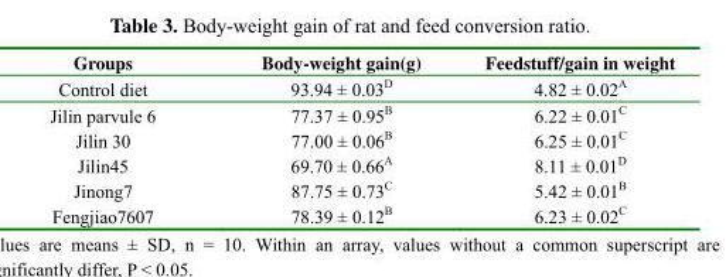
<table><thead><tr><td>Groups</td><td>Body-weight gain(g)</td><td>Feedstuff/gain in weight</td></tr></thead><tbody><tr><td>Control diet</td><td>93.94 ± 0.03<sup>D</sup></td><td>4.82 ± 0.02<sup>A</sup></td></tr><tr><td>Jilin parvule 6</td><td>77.37 ± 0.95<sup>B</sup></td><td>6.22 ± 0.01<sup>C</sup></td></tr><tr><td>Jilin 30</td><td>77.00 ± 0.06<sup>B</sup></td><td>6.25 ± 0.01<sup>C</sup></td></tr><tr><td>Jilin45</td><td>69.70 ± 0.66<sup>A</sup></td><td>8.11 ± 0.01<sup>D</sup></td></tr><tr><td>Jinong7</td><td>87.75 ± 0.73<sup>C</sup></td><td>5.42 ± 0.01<sup>B</sup></td></tr><tr><td>Fengjiao7607</td><td>78.39 ± 0.12<sup>B</sup></td><td>6.23 ± 0.02<sup>C</sup></td></tr></tbody></table>